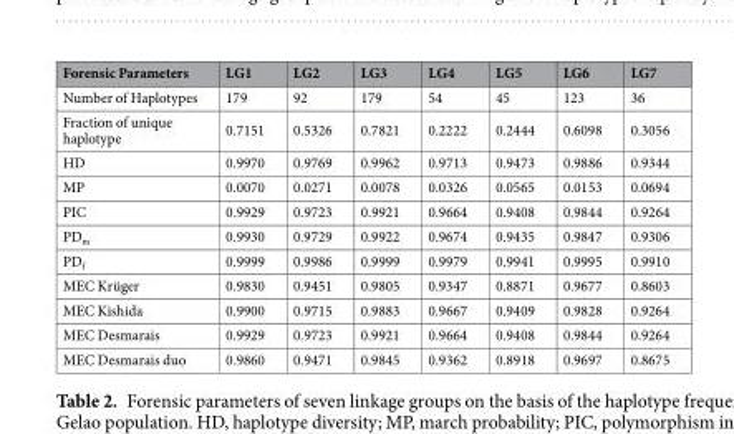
<table><thead><tr><td>Forensic Parameters</td><td>LG1</td><td>LG2</td><td>LG3</td><td>LG4</td><td>LG5</td><td>LG6</td><td>LG7</td></tr></thead><tbody><tr><td>Number of Haplotypes</td><td>179</td><td>92</td><td>179</td><td>54</td><td>45</td><td>123</td><td>36</td></tr><tr><td>Fraction of unique haplotype</td><td>0.7151</td><td>0.5326</td><td>0.7821</td><td>0.2222</td><td>0.2444</td><td>0.6098</td><td>0.3056</td></tr><tr><td>HD</td><td>0.9970</td><td>0.9769</td><td>0.9962</td><td>0.9713</td><td>0.9473</td><td>0.9886</td><td>0.9344</td></tr><tr><td>MP</td><td>0.0070</td><td>0.0271</td><td>0.0078</td><td>0.0326</td><td>0.0565</td><td>0.0153</td><td>0.0694</td></tr><tr><td>PIC</td><td>0.9929</td><td>0.9723</td><td>0.9921</td><td>0.9664</td><td>0.9408</td><td>0.9844</td><td>0.9264</td></tr><tr><td>PD<sub>m</sub></td><td>0.9930</td><td>0.9729</td><td>0.9922</td><td>0.9674</td><td>0.9435</td><td>0.9847</td><td>0.9306</td></tr><tr><td>PD<sub>f</sub></td><td>0.9999</td><td>0.9986</td><td>0.9999</td><td>0.9979</td><td>0.9941</td><td>0.9995</td><td>0.9910</td></tr><tr><td>MEC Krüger</td><td>0.9830</td><td>0.9451</td><td>0.9805</td><td>0.9347</td><td>0.8871</td><td>0.9677</td><td>0.8603</td></tr><tr><td>MEC Kishida</td><td>0.9900</td><td>0.9715</td><td>0.9883</td><td>0.9667</td><td>0.9409</td><td>0.9828</td><td>0.9264</td></tr><tr><td>MEC Desmarais</td><td>0.9929</td><td>0.9723</td><td>0.9921</td><td>0.9664</td><td>0.9408</td><td>0.9844</td><td>0.9264</td></tr><tr><td>MEC Desmarais duo</td><td>0.9860</td><td>0.9471</td><td>0.9845</td><td>0.9362</td><td>0.8918</td><td>0.9697</td><td>0.8675</td></tr></tbody></table>